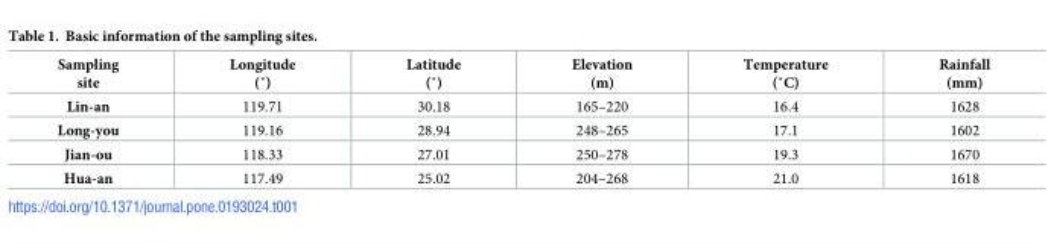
<table><thead><tr><td>Sampling site</td><td>Longitude (˚)</td><td>Latitude (˚)</td><td>Elevation (m)</td><td>Temperature (˚C)</td><td>Rainfall (mm)</td></tr></thead><tbody><tr><td>Lin-an</td><td>119.71</td><td>30.18</td><td>165–220</td><td>16.4</td><td>1628</td></tr><tr><td>Long-you</td><td>119.16</td><td>28.94</td><td>248–265</td><td>17.1</td><td>1602</td></tr><tr><td>Jian-ou</td><td>118.33</td><td>27.01</td><td>250–278</td><td>19.3</td><td>1670</td></tr><tr><td>Hua-an</td><td>117.49</td><td>25.02</td><td>204–268</td><td>21.0</td><td>1618</td></tr></tbody></table>